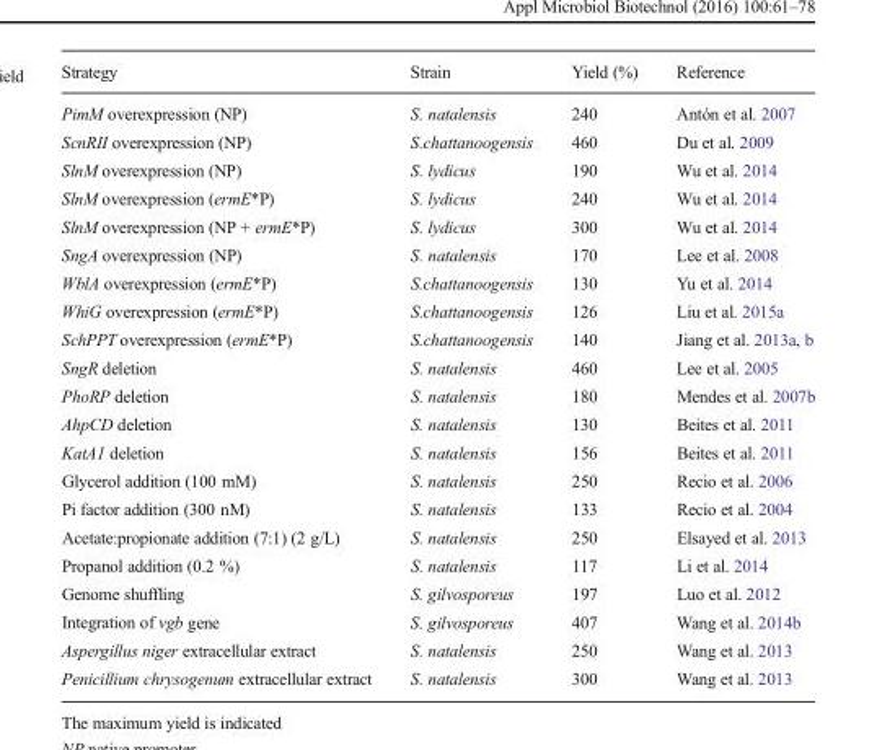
<table><thead><tr><td>Strategy</td><td>Strain</td><td>Yield (%)</td><td>Reference</td></tr></thead><tbody><tr><td>PimM overexpression (NP)</td><td>S. natalensis</td><td>240</td><td>Antón et al. 2007</td></tr><tr><td>ScnRII overexpression (NP)</td><td>S.chattanoogensis</td><td>460</td><td>Du et al. 2009</td></tr><tr><td>SlnM overexpression (NP)</td><td>S. lydicus</td><td>190</td><td>Wu et al. 2014</td></tr><tr><td>SlnM overexpression (ermE*P)</td><td>S. lydicus</td><td>240</td><td>Wu et al. 2014</td></tr><tr><td>SlnM overexpression (NP + ermE*P)</td><td>S. lydicus</td><td>300</td><td>Wu et al. 2014</td></tr><tr><td>SngA overexpression (NP)</td><td>S. natalensis</td><td>170</td><td>Lee et al. 2008</td></tr><tr><td>WblA overexpression (ermE*P)</td><td>S.chattanoogensis</td><td>130</td><td>Yu et al. 2014</td></tr><tr><td>WhiG overexpression (ermE*P)</td><td>S.chattanoogensis</td><td>126</td><td>Liu et al. 2015a</td></tr><tr><td>SchPPT overexpression (ermE*P)</td><td>S.chattanoogensis</td><td>140</td><td>Jiang et al. 2013a, b</td></tr><tr><td>SngR deletion</td><td>S. natalensis</td><td>460</td><td>Lee et al. 2005</td></tr><tr><td>PhoRP deletion</td><td>S. natalensis</td><td>180</td><td>Mendes et al. 2007b</td></tr><tr><td>AhpCD deletion</td><td>S. natalensis</td><td>130</td><td>Beites et al. 2011</td></tr><tr><td>KatA1 deletion</td><td>S. natalensis</td><td>156</td><td>Beites et al. 2011</td></tr><tr><td>Glycerol addition (100 mM)</td><td>S. natalensis</td><td>250</td><td>Recio et al. 2006</td></tr><tr><td>Pi factor addition (300 nM)</td><td>S. natalensis</td><td>133</td><td>Recio et al. 2004</td></tr><tr><td>Acetate:propionate addition (7:1) (2 g/L)</td><td>S. natalensis</td><td>250</td><td>Elsayed et al. 2013</td></tr><tr><td>Propanol addition (0.2 %)</td><td>S. natalensis</td><td>117</td><td>Li et al. 2014</td></tr><tr><td>Genome shuffling</td><td>S. gilvosporeus</td><td>197</td><td>Luo et al. 2012</td></tr><tr><td>Integration of vgb gene</td><td>S. gilvosporeus</td><td>407</td><td>Wang et al. 2014b</td></tr><tr><td>Aspergillus niger extracellular extract</td><td>S. natalensis</td><td>250</td><td>Wang et al. 2013</td></tr><tr><td>Penicillium chrysogenum extracellular extract</td><td>S. natalensis</td><td>300</td><td>Wang et al. 2013</td></tr></tbody></table>